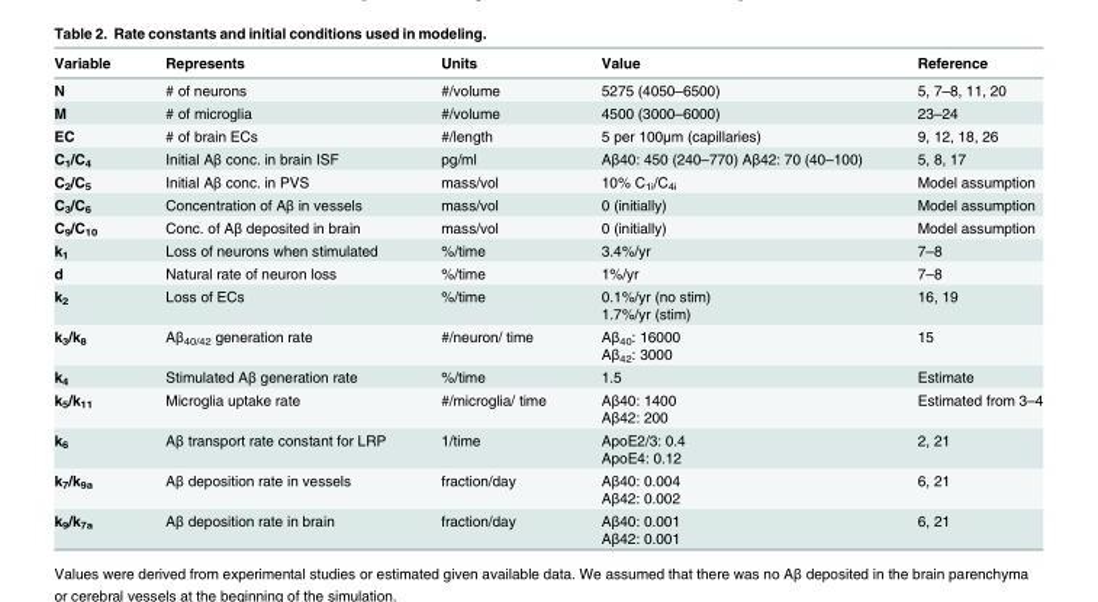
<table><thead><tr><td>Variable</td><td>Represents</td><td>Units</td><td>Value</td><td>Reference</td></tr></thead><tbody><tr><td>N</td><td># of neurons</td><td>#/volume</td><td>5275 (4050–6500)</td><td>5, 7–8, 11, 20</td></tr><tr><td>M</td><td># of microglia</td><td>#/volume</td><td>4500 (3000–6000)</td><td>23–24</td></tr><tr><td>EC</td><td># of brain ECs</td><td>#/length</td><td>5 per 100μm (capillaries)</td><td>9, 12, 18, 26</td></tr><tr><td>C<sub>1</sub>/C<sub>4</sub></td><td>Initial Aβ conc. in brain ISF</td><td>pg/ml</td><td>Aβ40: 450 (240–770) Aβ42: 70 (40–100)</td><td>5, 8, 17</td></tr><tr><td>C<sub>2</sub>/C<sub>5</sub></td><td>Initial Aβ conc. in PVS</td><td>mass/vol</td><td>10% C<sub>1i</sub>/C<sub>4i</sub></td><td>Model assumption</td></tr><tr><td>C<sub>3</sub>/C<sub>6</sub></td><td>Concentration of Aβ in vessels</td><td>mass/vol</td><td>0 (initially)</td><td>Model assumption</td></tr><tr><td>C<sub>9</sub>/C<sub>10</sub></td><td>Conc. of Aβ deposited in brain</td><td>mass/vol</td><td>0 (initially)</td><td>Model assumption</td></tr><tr><td>k<sub>1</sub></td><td>Loss of neurons when stimulated</td><td>%/time</td><td>3.4%/yr</td><td>7–8</td></tr><tr><td>d</td><td>Natural rate of neuron loss</td><td>%/time</td><td>1%/yr</td><td>7–8</td></tr><tr><td>k<sub>2</sub></td><td>Loss of ECs</td><td>%/time</td><td>0.1%/yr (no stim) 1.7%/yr (stim)</td><td>16, 19</td></tr><tr><td>k<sub>3</sub>/k<sub>8</sub></td><td>Aβ<sub>40/42</sub> generation rate</td><td>#/neuron/ time</td><td>Aβ<sub>40</sub>: 16000 Aβ<sub>42</sub>: 3000</td><td>15</td></tr><tr><td>k<sub>4</sub></td><td>Stimulated Aβ generation rate</td><td>%/time</td><td>1.5</td><td>Estimate</td></tr><tr><td>k<sub>5</sub>/k<sub>11</sub></td><td>Microglia uptake rate</td><td>#/microglia/ time</td><td>Aβ40: 1400 Aβ42: 200</td><td>Estimated from 3–4</td></tr><tr><td>k<sub>6</sub></td><td>Aβ transport rate constant for LRP</td><td>1/time</td><td>ApoE2/3: 0.4 ApoE4: 0.12</td><td>2, 21</td></tr><tr><td>k<sub>7</sub>/k<sub>9a</sub></td><td>Aβ deposition rate in vessels</td><td>fraction/day</td><td>Aβ40: 0.004 Aβ42: 0.002</td><td>6, 21</td></tr><tr><td>k<sub>9</sub>/k<sub>7a</sub></td><td>Aβ deposition rate in brain</td><td>fraction/day</td><td>Aβ40: 0.001 Aβ42: 0.001</td><td>6, 21</td></tr></tbody></table>